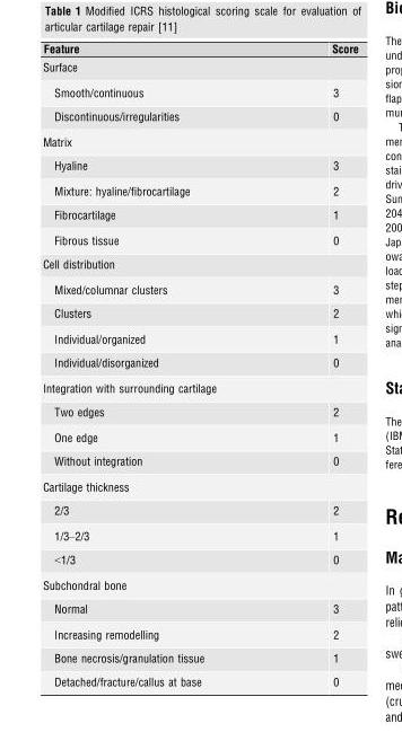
<table><thead><tr><td>Feature</td><td>Score</td></tr></thead><tbody><tr><td colspan="2">Surface</td></tr><tr><td>Smooth/continuous</td><td>3</td></tr><tr><td>Discontinuous/irregularities</td><td>0</td></tr><tr><td colspan="2">Matrix</td></tr><tr><td>Hyaline</td><td>3</td></tr><tr><td>Mixture: hyaline/fibrocartilage</td><td>2</td></tr><tr><td>Fibrocartilage</td><td>1</td></tr><tr><td>Fibrous tissue</td><td>0</td></tr><tr><td colspan="2">Cell distribution</td></tr><tr><td>Mixed/columnar clusters</td><td>3</td></tr><tr><td>Clusters</td><td>2</td></tr><tr><td>Individual/organized</td><td>1</td></tr><tr><td>Individual/disorganized</td><td>0</td></tr><tr><td colspan="2">Integration with surrounding cartilage</td></tr><tr><td>Two edges</td><td>2</td></tr><tr><td>One edge</td><td>1</td></tr><tr><td>Without integration</td><td>0</td></tr><tr><td colspan="2">Cartilage thickness</td></tr><tr><td>2/3</td><td>2</td></tr><tr><td>1/3–2/3</td><td>1</td></tr><tr><td>&lt;1/3</td><td>0</td></tr><tr><td colspan="2">Subchondral bone</td></tr><tr><td>Normal</td><td>3</td></tr><tr><td>Increasing remodelling</td><td>2</td></tr><tr><td>Bone necrosis/granulation tissue</td><td>1</td></tr><tr><td>Detached/fracture/callus at base</td><td>0</td></tr></tbody></table>